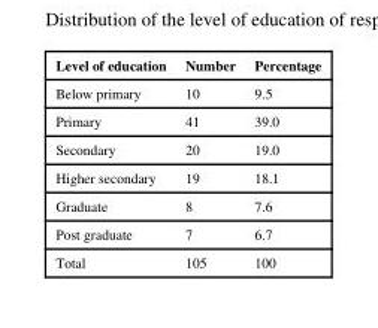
<table><thead><tr><td>Level of education</td><td>Number</td><td>Percentage</td></tr></thead><tbody><tr><td>Below primary</td><td>10</td><td>9.5</td></tr><tr><td>Primary</td><td>41</td><td>39.0</td></tr><tr><td>Secondary</td><td>20</td><td>19.0</td></tr><tr><td>Higher secondary</td><td>19</td><td>18.1</td></tr><tr><td>Graduate</td><td>8</td><td>7.6</td></tr><tr><td>Post graduate</td><td>7</td><td>6.7</td></tr><tr><td>Total</td><td>105</td><td>100</td></tr></tbody></table>